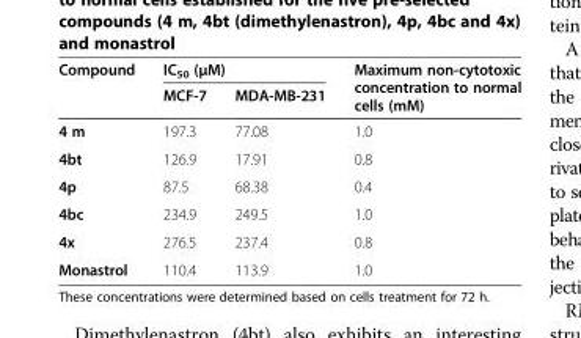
<table><thead><tr><td rowspan="2">Compound</td><td colspan="2">IC<sub>50</sub> (μM)</td><td rowspan="2">Maximum non-cytotoxic concentration to normal cells (mM)</td></tr><tr><td>MCF-7</td><td>MDA-MB-231</td></tr></thead><tbody><tr><td>4 m</td><td>197.3</td><td>77.08</td><td>1.0</td></tr><tr><td>4bt</td><td>126.9</td><td>17.91</td><td>0.8</td></tr><tr><td>4p</td><td>87.5</td><td>68.38</td><td>0.4</td></tr><tr><td>4bc</td><td>234.9</td><td>249.5</td><td>1.0</td></tr><tr><td>4x</td><td>276.5</td><td>237.4</td><td>0.8</td></tr><tr><td>Monastrol</td><td>110.4</td><td>113.9</td><td>1.0</td></tr></tbody></table>